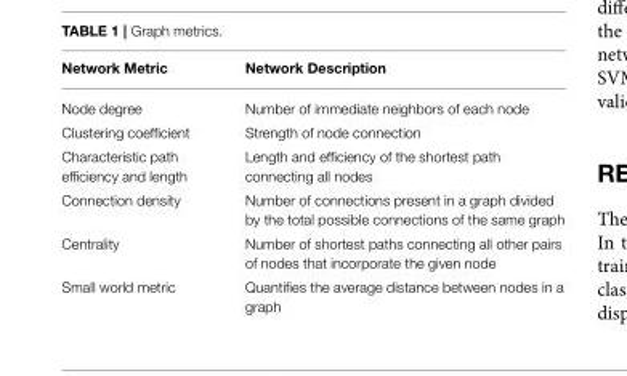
<table><thead><tr><td>Network Metric</td><td>Network Description</td></tr></thead><tbody><tr><td>Node degree</td><td>Number of immediate neighbors of each node</td></tr><tr><td>Clustering coefficient</td><td>Strength of node connection</td></tr><tr><td>Characteristic path efficiency and length</td><td>Length and efficiency of the shortest path connecting all nodes</td></tr><tr><td>Connection density</td><td>Number of connections present in a graph divided by the total possible connections of the same graph</td></tr><tr><td>Centrality</td><td>Number of shortest paths connecting all other pairs of nodes that incorporate the given node</td></tr><tr><td>Small world metric</td><td>Quantifies the average distance between nodes in a graph</td></tr></tbody></table>